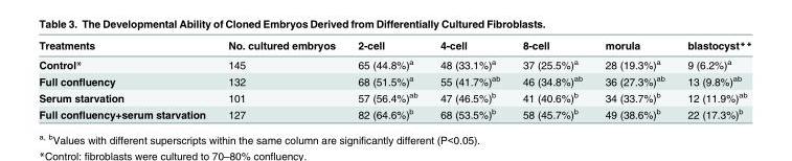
<table><thead><tr><td>Treatments</td><td>No. cultured embryos</td><td>2-cell</td><td>4-cell</td><td>8-cell</td><td>morula</td><td>blastocyst**</td></tr></thead><tbody><tr><td>Control*</td><td>145</td><td>65 (44.8%)<sup>a</sup></td><td>48 (33.1%)<sup>a</sup></td><td>37 (25.5%)<sup>a</sup></td><td>28 (19.3%)<sup>a</sup></td><td>9 (6.2%)<sup>a</sup></td></tr><tr><td>Full confluency</td><td>132</td><td>68 (51.5%)<sup>a</sup></td><td>55 (41.7%)<sup>ab</sup></td><td>46 (34.8%)<sup>ab</sup></td><td>36 (27.3%)<sup>ab</sup></td><td>13 (9.8%)<sup>ab</sup></td></tr><tr><td>Serum starvation</td><td>101</td><td>57 (56.4%)<sup>ab</sup></td><td>47 (46.5%)<sup>b</sup></td><td>41 (40.6%)<sup>b</sup></td><td>34 (33.7%)<sup>b</sup></td><td>12 (11.9%)<sup>ab</sup></td></tr><tr><td>Full confluency+serum starvation</td><td>127</td><td>82 (64.6%)<sup>b</sup></td><td>68 (53.5%)<sup>b</sup></td><td>58 (45.7%)<sup>b</sup></td><td>49 (38.6%)<sup>b</sup></td><td>22 (17.3%)<sup>b</sup></td></tr></tbody></table>